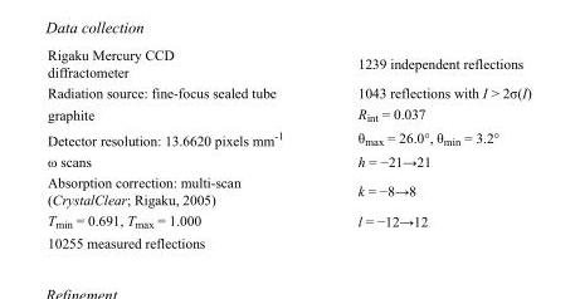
<table><tbody><tr><td>Rigaku Mercury CCD diffractometer</td><td>1239 independent reflections</td></tr><tr><td>Radiation source: fine-focus sealed tube</td><td>1043 reflections with I &gt; 2σ(I)</td></tr><tr><td>graphite</td><td>R<sub>int</sub> = 0.037</td></tr><tr><td>Detector resolution: 13.6620 pixels mm<sup>-1</sup></td><td>θ<sub>max</sub> = 26.0°, θ<sub>min</sub> = 3.2°</td></tr><tr><td>ω scans</td><td>h = −21→21</td></tr><tr><td>Absorption correction: multi-scan (CrystalClear; Rigaku, 2005)</td><td>k = −8→8</td></tr><tr><td>T<sub>min</sub> = 0.691, T<sub>max</sub> = 1.000</td><td>l = −12→12</td></tr><tr><td>10255 measured reflections</td><td></td></tr></tbody></table>